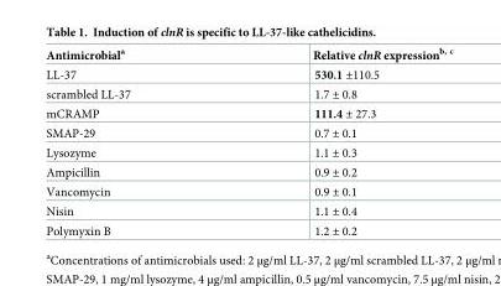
<table><thead><tr><td>Antimicrobial<sup>a</sup></td><td>Relative clnR expression<sup>b, c</sup></td></tr></thead><tbody><tr><td>LL-37</td><td>530.1 ±110.5</td></tr><tr><td>scrambled LL-37</td><td>1.7 ± 0.8</td></tr><tr><td>mCRAMP</td><td>111.4 ± 27.3</td></tr><tr><td>SMAP-29</td><td>0.7 ± 0.1</td></tr><tr><td>Lysozyme</td><td>1.1 ± 0.3</td></tr><tr><td>Ampicillin</td><td>0.9 ± 0.2</td></tr><tr><td>Vancomycin</td><td>0.9 ± 0.1</td></tr><tr><td>Nisin</td><td>1.1 ± 0.4</td></tr><tr><td>Polymyxin B</td><td>1.2 ± 0.2</td></tr></tbody></table>